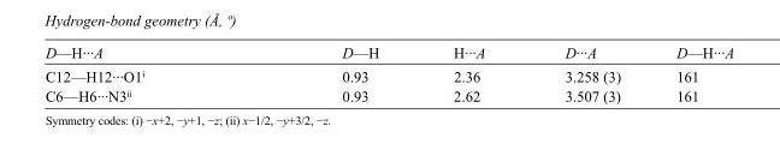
<table><tbody><tr><td>D—H···A</td><td>D—H</td><td>H···A</td><td>D···A</td><td>D—H···A</td></tr><tr><td>C12—H12···O1<sup>i</sup></td><td>0.93</td><td>2.36</td><td>3.258 (3)</td><td>161</td></tr><tr><td>C6—H6···N3<sup>ii</sup></td><td>0.93</td><td>2.62</td><td>3.507 (3)</td><td>161</td></tr></tbody></table>